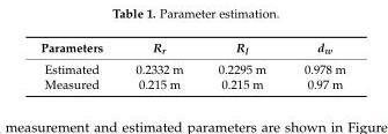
<table><thead><tr><td>Parameters</td><td>R<sub>r</sub></td><td>R<sub>l</sub></td><td>d<sub>w</sub></td></tr></thead><tbody><tr><td>Estimated</td><td>0.2332 m</td><td>0.2295 m</td><td>0.978 m</td></tr><tr><td>Measured</td><td>0.215 m</td><td>0.215 m</td><td>0.97 m</td></tr></tbody></table>